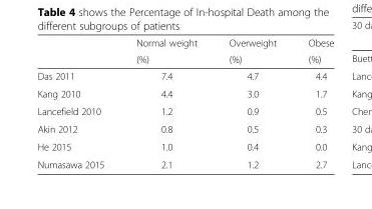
<table><thead><tr><td rowspan="2"></td><td rowspan="2">Normal weight (%)</td><td rowspan="2">Overweight (%)</td><td rowspan="2">Obese (%)</td></tr><tr></tr></thead><tbody><tr><td>Das 2011</td><td>7.4</td><td>4.7</td><td>4.4</td></tr><tr><td>Kang 2010</td><td>4.4</td><td>3.0</td><td>1.7</td></tr><tr><td>Lancefield 2010</td><td>1.2</td><td>0.9</td><td>0.5</td></tr><tr><td>Akin 2012</td><td>0.8</td><td>0.5</td><td>0.3</td></tr><tr><td>He 2015</td><td>1.0</td><td>0.4</td><td>0.0</td></tr><tr><td>Numasawa 2015</td><td>2.1</td><td>1.2</td><td>2.7</td></tr></tbody></table>